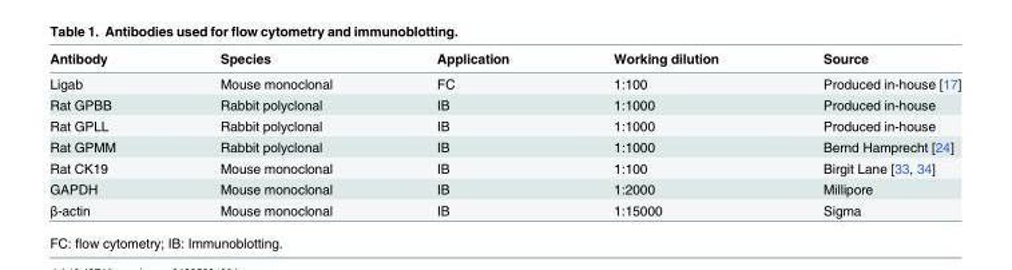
<table><thead><tr><td>Antibody</td><td>Species</td><td>Application</td><td>Working dilution</td><td>Source</td></tr></thead><tbody><tr><td>Ligab</td><td>Mouse monoclonal</td><td>FC</td><td>1:100</td><td>Produced in-house [17]</td></tr><tr><td>Rat GPBB</td><td>Rabbit polyclonal</td><td>IB</td><td>1:1000</td><td>Produced in-house</td></tr><tr><td>Rat GPLL</td><td>Rabbit polyclonal</td><td>IB</td><td>1:1000</td><td>Produced in-house</td></tr><tr><td>Rat GPMM</td><td>Rabbit polyclonal</td><td>IB</td><td>1:1000</td><td>Bernd Hamprecht [24]</td></tr><tr><td>Rat CK19</td><td>Mouse monoclonal</td><td>IB</td><td>1:100</td><td>Birgit Lane [33, 34]</td></tr><tr><td>GAPDH</td><td>Mouse monoclonal</td><td>IB</td><td>1:2000</td><td>Millipore</td></tr><tr><td>β-actin</td><td>Mouse monoclonal</td><td>IB</td><td>1:15000</td><td>Sigma</td></tr></tbody></table>